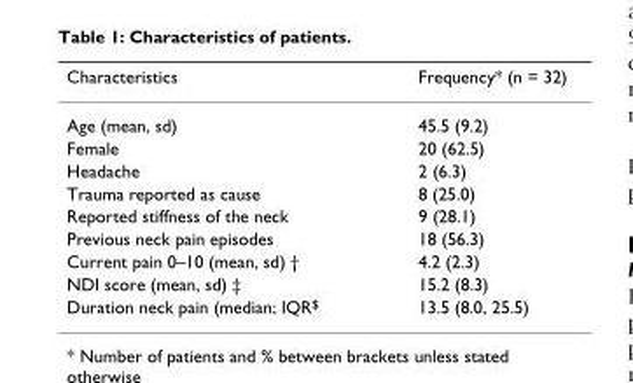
<table><thead><tr><td>Characteristics</td><td>Frequency* (n = 32)</td></tr></thead><tbody><tr><td>Age (mean, sd)</td><td>45.5 (9.2)</td></tr><tr><td>Female</td><td>20 (62.5)</td></tr><tr><td>Headache</td><td>2 (6.3)</td></tr><tr><td>Trauma reported as cause</td><td>8 (25.0)</td></tr><tr><td>Reported stiffness of the neck</td><td>9 (28.1)</td></tr><tr><td>Previous neck pain episodes</td><td>18 (56.3)</td></tr><tr><td>Current pain 0–10 (mean, sd) †</td><td>4.2 (2.3)</td></tr><tr><td>NDI score (mean, sd) ‡</td><td>15.2 (8.3)</td></tr><tr><td>Duration neck pain (median; IQR<sup>$</sup></td><td>13.5 (8.0, 25.5)</td></tr></tbody></table>